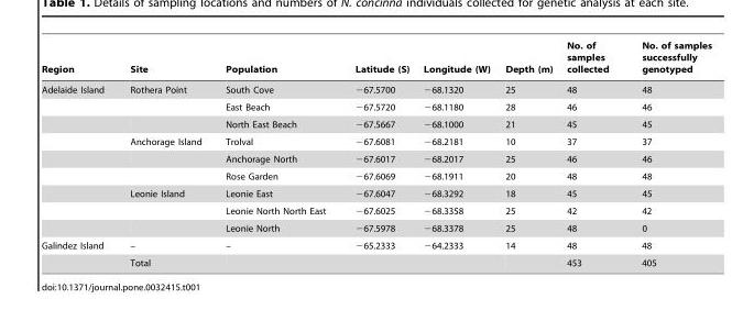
<table><thead><tr><td>Region</td><td>Site</td><td>Population</td><td>Latitude (S)</td><td>Longitude (W)</td><td>Depth (m)</td><td>No. of samples collected</td><td>No. of samples successfully genotyped</td></tr></thead><tbody><tr><td rowspan="9">Adelaide Island</td><td>Rothera Point</td><td>South Cove</td><td>−67.5700</td><td>−68.1320</td><td>25</td><td>48</td><td>48</td></tr><tr><td></td><td>East Beach</td><td>−67.5720</td><td>−68.1180</td><td>28</td><td>46</td><td>46</td></tr><tr><td></td><td>North East Beach</td><td>−67.5667</td><td>−68.1000</td><td>21</td><td>45</td><td>45</td></tr><tr><td>Anchorage Island</td><td>Trolval</td><td>−67.6081</td><td>−68.2181</td><td>10</td><td>37</td><td>37</td></tr><tr><td></td><td>Anchorage North</td><td>−67.6017</td><td>−68.2017</td><td>25</td><td>46</td><td>46</td></tr><tr><td></td><td>Rose Garden</td><td>−67.6069</td><td>−68.1911</td><td>20</td><td>48</td><td>48</td></tr><tr><td>Leonie Island</td><td>Leonie East</td><td>−67.6047</td><td>−68.3292</td><td>18</td><td>45</td><td>45</td></tr><tr><td></td><td>Leonie North North East</td><td>−67.6025</td><td>−68.3358</td><td>25</td><td>42</td><td>42</td></tr><tr><td></td><td>Leonie North</td><td>−67.5978</td><td>−68.3378</td><td>25</td><td>48</td><td>0</td></tr><tr><td rowspan="2">Galindez Island</td><td>–</td><td>–</td><td>−65.2333</td><td>−64.2333</td><td>14</td><td>48</td><td>48</td></tr><tr><td>Total</td><td></td><td></td><td></td><td></td><td>453</td><td>405</td></tr></tbody></table>